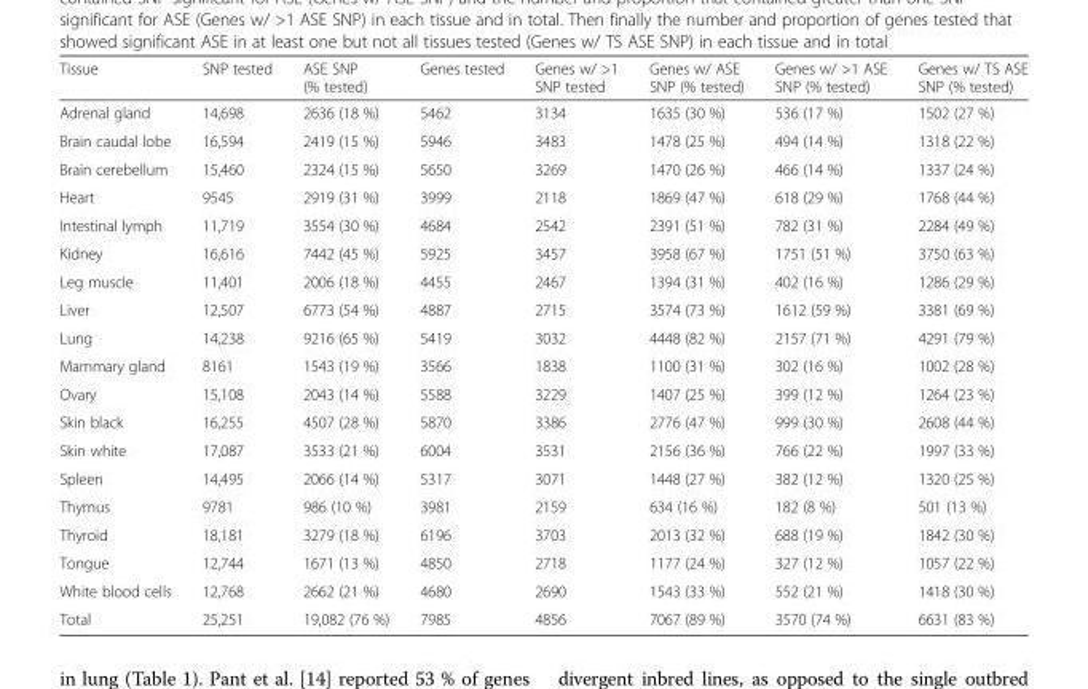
<table><thead><tr><td>Tissue</td><td>SNP tested</td><td>ASE SNP (% tested)</td><td>Genes tested</td><td>Genes w/ &gt;1 SNP tested</td><td>Genes w/ ASE SNP (% tested)</td><td>Genes w/ &gt;1 ASE SNP (% tested)</td><td>Genes w/ TS ASE SNP (% tested)</td></tr></thead><tbody><tr><td>Adrenal gland</td><td>14,698</td><td>2636 (18 %)</td><td>5462</td><td>3134</td><td>1635 (30 %)</td><td>536 (17 %)</td><td>1502 (27 %)</td></tr><tr><td>Brain caudal lobe</td><td>16,594</td><td>2419 (15 %)</td><td>5946</td><td>3483</td><td>1478 (25 %)</td><td>494 (14 %)</td><td>1318 (22 %)</td></tr><tr><td>Brain cerebellum</td><td>15,460</td><td>2324 (15 %)</td><td>5650</td><td>3269</td><td>1470 (26 %)</td><td>466 (14 %)</td><td>1337 (24 %)</td></tr><tr><td>Heart</td><td>9545</td><td>2919 (31 %)</td><td>3999</td><td>2118</td><td>1869 (47 %)</td><td>618 (29 %)</td><td>1768 (44 %)</td></tr><tr><td>Intestinal lymph</td><td>11,719</td><td>3554 (30 %)</td><td>4684</td><td>2542</td><td>2391 (51 %)</td><td>782 (31 %)</td><td>2284 (49 %)</td></tr><tr><td>Kidney</td><td>16,616</td><td>7442 (45 %)</td><td>5925</td><td>3457</td><td>3958 (67 %)</td><td>1751 (51 %)</td><td>3750 (63 %)</td></tr><tr><td>Leg muscle</td><td>11,401</td><td>2006 (18 %)</td><td>4455</td><td>2467</td><td>1394 (31 %)</td><td>402 (16 %)</td><td>1286 (29 %)</td></tr><tr><td>Liver</td><td>12,507</td><td>6773 (54 %)</td><td>4887</td><td>2715</td><td>3574 (73 %)</td><td>1612 (59 %)</td><td>3381 (69 %)</td></tr><tr><td>Lung</td><td>14,238</td><td>9216 (65 %)</td><td>5419</td><td>3032</td><td>4448 (82 %)</td><td>2157 (71 %)</td><td>4291 (79 %)</td></tr><tr><td>Mammary gland</td><td>8161</td><td>1543 (19 %)</td><td>3566</td><td>1838</td><td>1100 (31 %)</td><td>302 (16 %)</td><td>1002 (28 %)</td></tr><tr><td>Ovary</td><td>15,108</td><td>2043 (14 %)</td><td>5588</td><td>3229</td><td>1407 (25 %)</td><td>399 (12 %)</td><td>1264 (23 %)</td></tr><tr><td>Skin black</td><td>16,255</td><td>4507 (28 %)</td><td>5870</td><td>3386</td><td>2776 (47 %)</td><td>999 (30 %)</td><td>2608 (44 %)</td></tr><tr><td>Skin white</td><td>17,087</td><td>3533 (21 %)</td><td>6004</td><td>3531</td><td>2156 (36 %)</td><td>766 (22 %)</td><td>1997 (33 %)</td></tr><tr><td>Spleen</td><td>14,495</td><td>2066 (14 %)</td><td>5317</td><td>3071</td><td>1448 (27 %)</td><td>382 (12 %)</td><td>1320 (25 %)</td></tr><tr><td>Thymus</td><td>9781</td><td>986 (10 %)</td><td>3981</td><td>2159</td><td>634 (16 %)</td><td>182 (8 %)</td><td>501 (13 %)</td></tr><tr><td>Thyroid</td><td>18,181</td><td>3279 (18 %)</td><td>6196</td><td>3703</td><td>2013 (32 %)</td><td>688 (19 %)</td><td>1842 (30 %)</td></tr><tr><td>Tongue</td><td>12,744</td><td>1671 (13 %)</td><td>4850</td><td>2718</td><td>1177 (24 %)</td><td>327 (12 %)</td><td>1057 (22 %)</td></tr><tr><td>White blood cells</td><td>12,768</td><td>2662 (21 %)</td><td>4680</td><td>2690</td><td>1543 (33 %)</td><td>552 (21 %)</td><td>1418 (30 %)</td></tr><tr><td>Total</td><td>25,251</td><td>19,082 (76 %)</td><td>7985</td><td>4856</td><td>7067 (89 %)</td><td>3570 (74 %)</td><td>6631 (83 %)</td></tr></tbody></table>